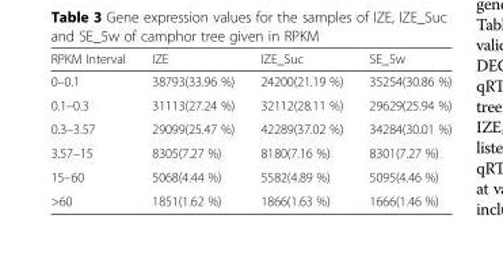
<table><thead><tr><td>RPKM Interval</td><td>IZE</td><td>IZE_Suc</td><td>SE_5w</td></tr></thead><tbody><tr><td>0–0.1</td><td>38793(33.96 %)</td><td>24200(21.19 %)</td><td>35254(30.86 %)</td></tr><tr><td>0.1–0.3</td><td>31113(27.24 %)</td><td>32112(28.11 %)</td><td>29629(25.94 %)</td></tr><tr><td>0.3–3.57</td><td>29099(25.47 %)</td><td>42289(37.02 %)</td><td>34284(30.01 %)</td></tr><tr><td>3.57–15</td><td>8305(7.27 %)</td><td>8180(7.16 %)</td><td>8301(7.27 %)</td></tr><tr><td>15–60</td><td>5068(4.44 %)</td><td>5582(4.89 %)</td><td>5095(4.46 %)</td></tr><tr><td>&gt;60</td><td>1851(1.62 %)</td><td>1866(1.63 %)</td><td>1666(1.46 %)</td></tr></tbody></table>